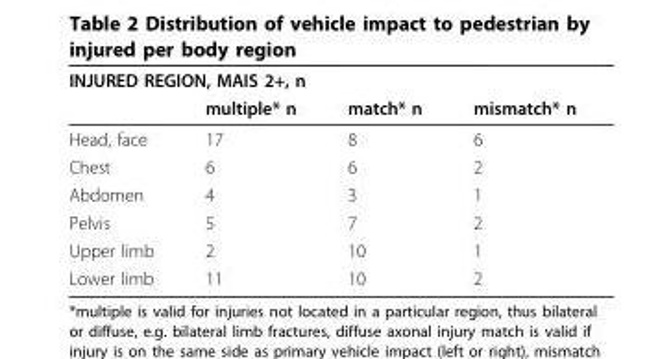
<table><thead><tr><td colspan="4">INJURED REGION, MAIS 2+, n</td></tr><tr><td></td><td>multiple* n</td><td>match* n</td><td>mismatch* n</td></tr></thead><tbody><tr><td>Head, face</td><td>17</td><td>8</td><td>6</td></tr><tr><td>Chest</td><td>6</td><td>6</td><td>2</td></tr><tr><td>Abdomen</td><td>4</td><td>3</td><td>1</td></tr><tr><td>Pelvis</td><td>5</td><td>7</td><td>2</td></tr><tr><td>Upper limb</td><td>2</td><td>10</td><td>1</td></tr><tr><td>Lower limb</td><td>11</td><td>10</td><td>2</td></tr></tbody></table>